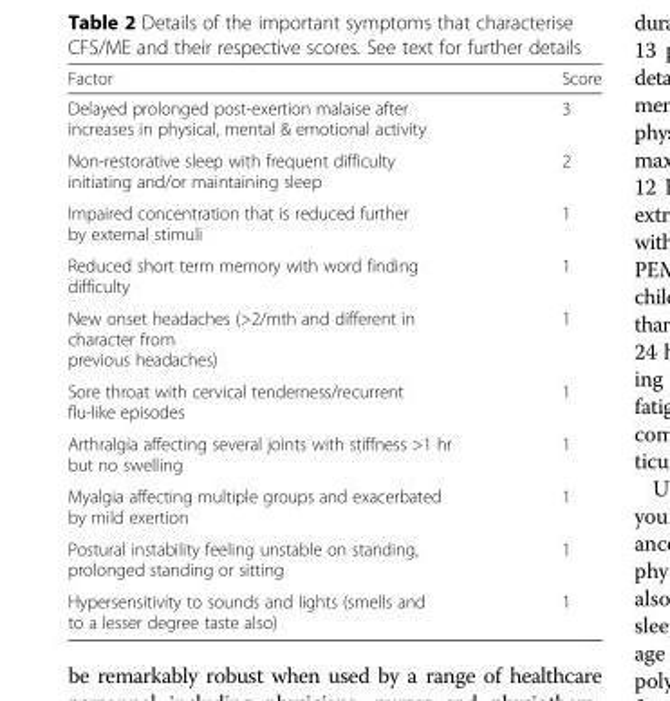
<table><thead><tr><td>Factor</td><td>Score</td></tr></thead><tbody><tr><td>Delayed prolonged post-exertion malaise after increases in physical, mental &amp; emotional activity</td><td>3</td></tr><tr><td>Non-restorative sleep with frequent difficulty initiating and/or maintaining sleep</td><td>2</td></tr><tr><td>Impaired concentration that is reduced further by external stimuli</td><td>1</td></tr><tr><td>Reduced short term memory with word finding difficulty</td><td>1</td></tr><tr><td>New onset headaches (&gt;2/mth and different in character from previous headaches)</td><td>1</td></tr><tr><td>Sore throat with cervical tenderness/recurrent flu-like episodes</td><td>1</td></tr><tr><td>Arthralgia affecting several joints with stiffness &gt;1 hr but no swelling</td><td>1</td></tr><tr><td>Myalgia affecting multiple groups and exacerbated by mild exertion</td><td>1</td></tr><tr><td>Postural instability feeling unstable on standing, prolonged standing or sitting</td><td>1</td></tr><tr><td>Hypersensitivity to sounds and lights (smells and to a lesser degree taste also)</td><td>1</td></tr></tbody></table>